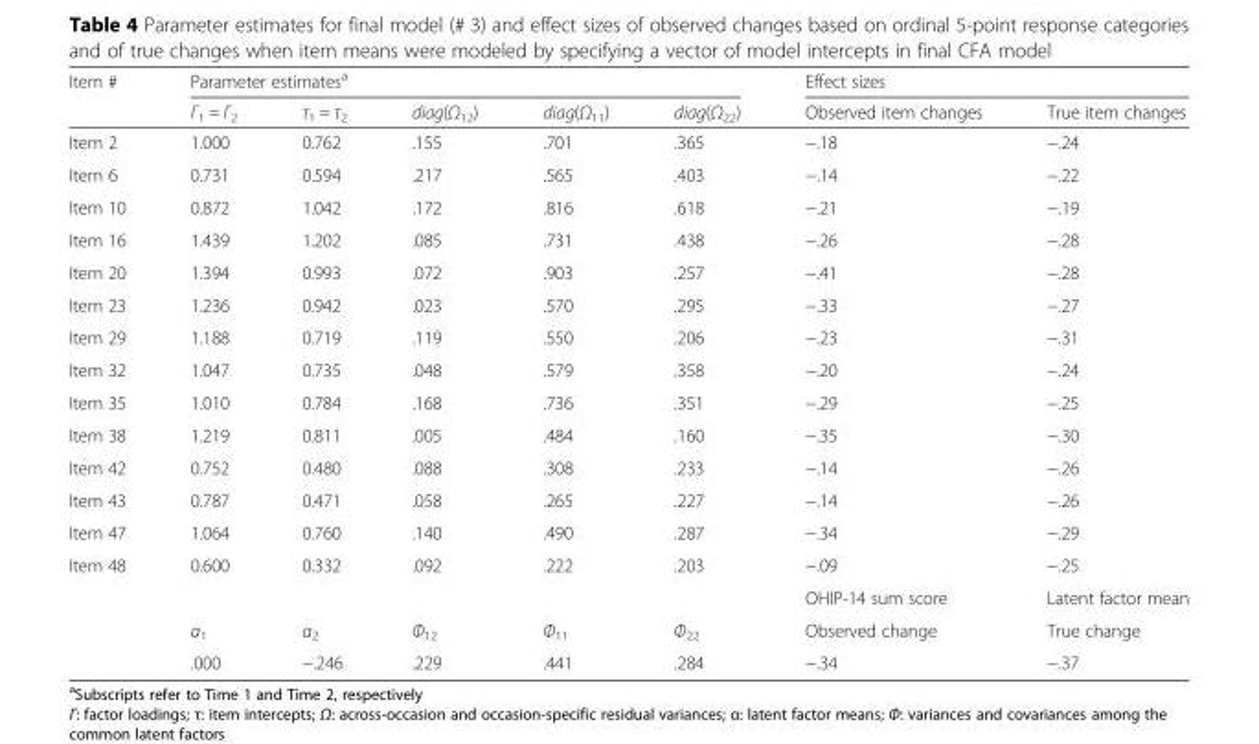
<table><thead><tr><td rowspan="2">Item #</td><td colspan="5">Parameter estimates<sup>a</sup></td><td colspan="2">Effect sizes</td></tr><tr><td>Γ<sub>1</sub> = Γ<sub>2</sub></td><td>τ<sub>1</sub> = τ<sub>2</sub></td><td>diag(Ω<sub>12</sub>)</td><td>diag(Ω<sub>11</sub>)</td><td>diag(Ω<sub>22</sub>)</td><td>Observed item changes</td><td>True item changes</td></tr></thead><tbody><tr><td>Item 2</td><td>1.000</td><td>0.762</td><td>.155</td><td>.701</td><td>.365</td><td>−.18</td><td>−.24</td></tr><tr><td>Item 6</td><td>0.731</td><td>0.594</td><td>.217</td><td>.565</td><td>.403</td><td>−.14</td><td>−.22</td></tr><tr><td>Item 10</td><td>0.872</td><td>1.042</td><td>.172</td><td>.816</td><td>.618</td><td>−.21</td><td>−.19</td></tr><tr><td>Item 16</td><td>1.439</td><td>1.202</td><td>.085</td><td>.731</td><td>.438</td><td>−.26</td><td>−.28</td></tr><tr><td>Item 20</td><td>1.394</td><td>0.993</td><td>.072</td><td>.903</td><td>.257</td><td>−.41</td><td>−.28</td></tr><tr><td>Item 23</td><td>1.236</td><td>0.942</td><td>.023</td><td>.570</td><td>.295</td><td>−.33</td><td>−.27</td></tr><tr><td>Item 29</td><td>1.188</td><td>0.719</td><td>.119</td><td>.550</td><td>.206</td><td>−.23</td><td>−.31</td></tr><tr><td>Item 32</td><td>1.047</td><td>0.735</td><td>.048</td><td>.579</td><td>.358</td><td>−.20</td><td>−.24</td></tr><tr><td>Item 35</td><td>1.010</td><td>0.784</td><td>.168</td><td>.736</td><td>.351</td><td>−.29</td><td>−.25</td></tr><tr><td>Item 38</td><td>1.219</td><td>0.811</td><td>.005</td><td>.484</td><td>.160</td><td>−.35</td><td>−.30</td></tr><tr><td>Item 42</td><td>0.752</td><td>0.480</td><td>.088</td><td>.308</td><td>.233</td><td>−.14</td><td>−.26</td></tr><tr><td>Item 43</td><td>0.787</td><td>0.471</td><td>.058</td><td>.265</td><td>.227</td><td>−.14</td><td>−.26</td></tr><tr><td>Item 47</td><td>1.064</td><td>0.760</td><td>.140</td><td>.490</td><td>.287</td><td>−.34</td><td>−.29</td></tr><tr><td rowspan="4">Item 48</td><td>0.600</td><td>0.332</td><td>.092</td><td>.222</td><td>.203</td><td>−.09</td><td>−.25</td></tr><tr><td></td><td></td><td></td><td></td><td></td><td>OHIP-14 sum score</td><td>Latent factor mean</td></tr><tr><td>α<sub>1</sub></td><td>α<sub>2</sub></td><td>Φ<sub>12</sub></td><td>Φ<sub>11</sub></td><td>Φ<sub>22</sub></td><td>Observed change</td><td>True change</td></tr><tr><td>.000</td><td>−.246</td><td>.229</td><td>.441</td><td>.284</td><td>−.34</td><td>−.37</td></tr></tbody></table>